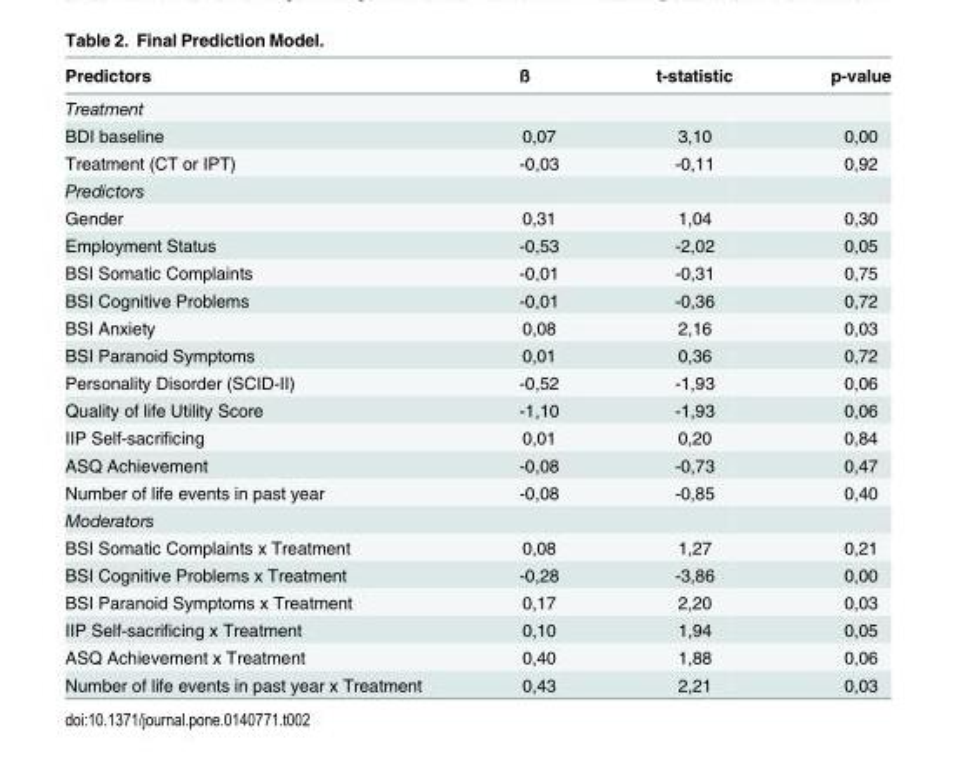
<table><thead><tr><td>Predictors</td><td>ß</td><td>t-statistic</td><td>p-value</td></tr></thead><tbody><tr><td colspan="4">Treatment</td></tr><tr><td>BDI baseline</td><td>0,07</td><td>3,10</td><td>0,00</td></tr><tr><td>Treatment (CT or IPT)</td><td>-0,03</td><td>-0,11</td><td>0,92</td></tr><tr><td colspan="4">Predictors</td></tr><tr><td>Gender</td><td>0,31</td><td>1,04</td><td>0,30</td></tr><tr><td>Employment Status</td><td>-0,53</td><td>-2,02</td><td>0,05</td></tr><tr><td>BSI Somatic Complaints</td><td>-0,01</td><td>-0,31</td><td>0,75</td></tr><tr><td>BSI Cognitive Problems</td><td>-0,01</td><td>-0,36</td><td>0,72</td></tr><tr><td>BSI Anxiety</td><td>0,08</td><td>2,16</td><td>0,03</td></tr><tr><td>BSI Paranoid Symptoms</td><td>0,01</td><td>0,36</td><td>0,72</td></tr><tr><td>Personality Disorder (SCID-II)</td><td>-0,52</td><td>-1,93</td><td>0,06</td></tr><tr><td>Quality of life Utility Score</td><td>-1,10</td><td>-1,93</td><td>0,06</td></tr><tr><td>IIP Self-sacrificing</td><td>0,01</td><td>0,20</td><td>0,84</td></tr><tr><td>ASQ Achievement</td><td>-0,08</td><td>-0,73</td><td>0,47</td></tr><tr><td>Number of life events in past year</td><td>-0,08</td><td>-0,85</td><td>0,40</td></tr><tr><td colspan="4">Moderators</td></tr><tr><td>BSI Somatic Complaints x Treatment</td><td>0,08</td><td>1,27</td><td>0,21</td></tr><tr><td>BSI Cognitive Problems x Treatment</td><td>-0,28</td><td>-3,86</td><td>0,00</td></tr><tr><td>BSI Paranoid Symptoms x Treatment</td><td>0,17</td><td>2,20</td><td>0,03</td></tr><tr><td>IIP Self-sacrificing x Treatment</td><td>0,10</td><td>1,94</td><td>0,05</td></tr><tr><td>ASQ Achievement x Treatment</td><td>0,40</td><td>1,88</td><td>0,06</td></tr><tr><td>Number of life events in past year x Treatment</td><td>0,43</td><td>2,21</td><td>0,03</td></tr></tbody></table>